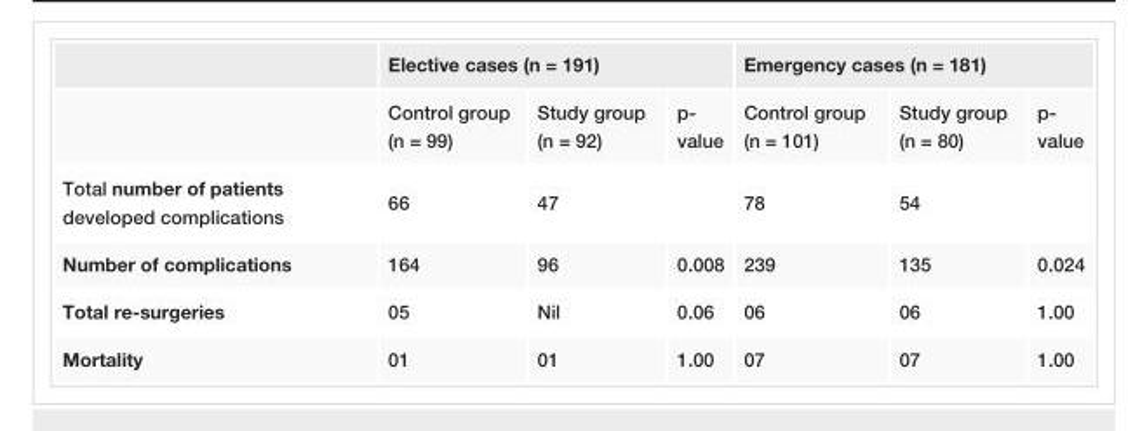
<table><thead><tr><td rowspan="2"></td><td colspan="3">Elective cases (n = 191)</td><td colspan="3">Emergency cases (n = 181)</td></tr><tr><td>Control group (n = 99)</td><td>Study group (n = 92)</td><td>p- value</td><td>Control group (n = 101)</td><td>Study group (n = 80)</td><td>p- value</td></tr></thead><tbody><tr><td>Total number of patients developed complications</td><td>66</td><td>47</td><td></td><td>78</td><td>54</td><td></td></tr><tr><td>Number of complications</td><td>164</td><td>96</td><td>0.008</td><td>239</td><td>135</td><td>0.024</td></tr><tr><td>Total re-surgeries</td><td>05</td><td>Nil</td><td>0.06</td><td>06</td><td>06</td><td>1.00</td></tr><tr><td>Mortality</td><td>01</td><td>01</td><td>1.00</td><td>07</td><td>07</td><td>1.00</td></tr></tbody></table>